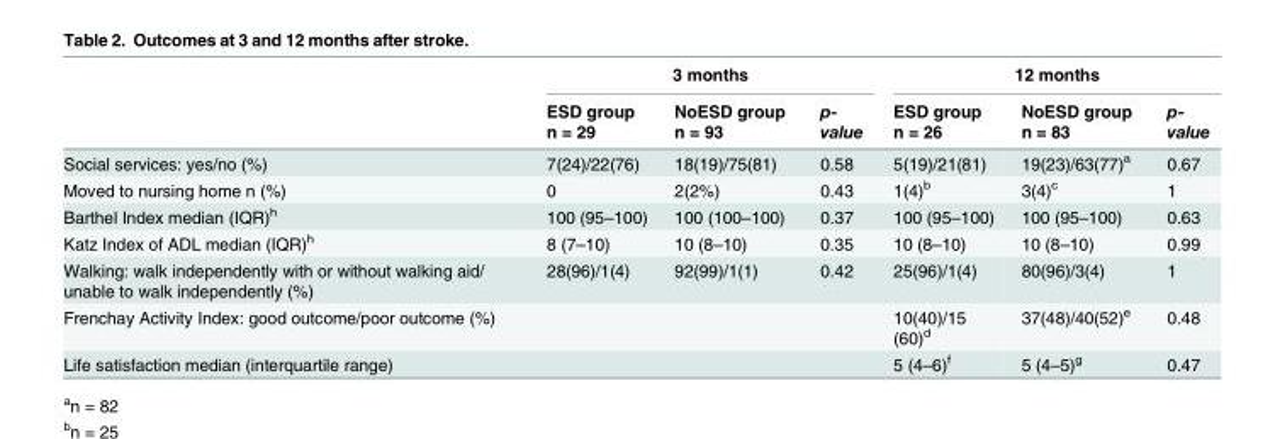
<table><thead><tr><td rowspan="2"></td><td colspan="3">3 months</td><td colspan="3">12 months</td></tr><tr><td>ESD group n = 29</td><td>NoESD group n = 93</td><td>p- value</td><td>ESD group n = 26</td><td>NoESD group n = 83</td><td>p- value</td></tr></thead><tbody><tr><td>Social services: yes/no (%)</td><td>7(24)/22(76)</td><td>18(19)/75(81)</td><td>0.58</td><td>5(19)/21(81)</td><td>19(23)/63(77)<sup>a</sup></td><td>0.67</td></tr><tr><td>Moved to nursing home n (%)</td><td>0</td><td>2(2%)</td><td>0.43</td><td>1(4)<sup>b</sup></td><td>3(4)<sup>c</sup></td><td>1</td></tr><tr><td>Barthel Index median (IQR)<sup>h</sup></td><td>100 (95–100)</td><td>100 (100–100)</td><td>0.37</td><td>100 (95–100)</td><td>100 (95–100)</td><td>0.63</td></tr><tr><td>Katz Index of ADL median (IQR)<sup>h</sup></td><td>8 (7–10)</td><td>10 (8–10)</td><td>0.35</td><td>10 (8–10)</td><td>10 (8–10)</td><td>0.99</td></tr><tr><td>Walking: walk independently with or without walking aid/ unable to walk independently (%)</td><td>28(96)/1(4)</td><td>92(99)/1(1)</td><td>0.42</td><td>25(96)/1(4)</td><td>80(96)/3(4)</td><td>1</td></tr><tr><td>Frenchay Activity Index: good outcome/poor outcome (%)</td><td></td><td></td><td></td><td>10(40)/15 (60)<sup>d</sup></td><td>37(48)/40(52)<sup>e</sup></td><td>0.48</td></tr><tr><td>Life satisfaction median (interquartile range)</td><td></td><td></td><td></td><td>5 (4–6)<sup>f</sup></td><td>5 (4–5)<sup>g</sup></td><td>0.47</td></tr></tbody></table>